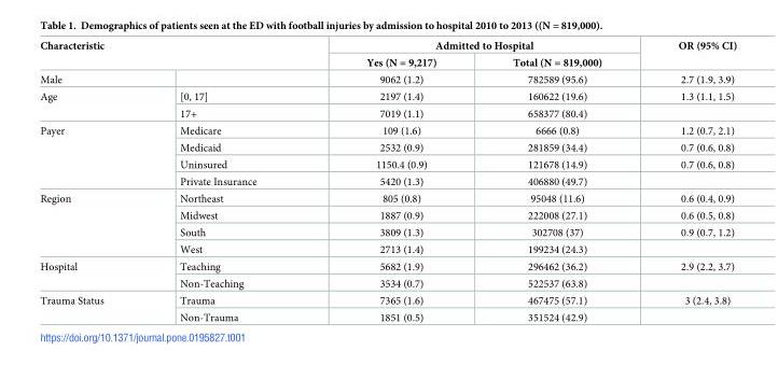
<table><thead><tr><td rowspan="2" colspan="2">Characteristic</td><td colspan="2">Admitted to Hospital</td><td rowspan="3">OR (95% CI) 2.7 (1.9, 3.9)</td></tr><tr><td rowspan="2">Yes (N = 9,217) 9062 (1.2)</td><td rowspan="2">Total (N = 819,000) 782589 (95.6)</td></tr><tr><td>Male</td><td></td></tr></thead><tbody><tr><td rowspan="2">Age</td><td>[0, 17]</td><td>2197 (1.4)</td><td>160622 (19.6)</td><td>1.3 (1.1, 1.5)</td></tr><tr><td>17+</td><td>7019 (1.1)</td><td>658377 (80.4)</td><td></td></tr><tr><td rowspan="4">Payer</td><td>Medicare</td><td>109 (1.6)</td><td>6666 (0.8)</td><td>1.2 (0.7, 2.1)</td></tr><tr><td>Medicaid</td><td>2532 (0.9)</td><td>281859 (34.4)</td><td>0.7 (0.6, 0.8)</td></tr><tr><td>Uninsured</td><td>1150.4 (0.9)</td><td>121678 (14.9)</td><td>0.7 (0.6, 0.8)</td></tr><tr><td>Private Insurance</td><td>5420 (1.3)</td><td>406880 (49.7)</td><td></td></tr><tr><td rowspan="4">Region</td><td>Northeast</td><td>805 (0.8)</td><td>95048 (11.6)</td><td>0.6 (0.4, 0.9)</td></tr><tr><td>Midwest</td><td>1887 (0.9)</td><td>222008 (27.1)</td><td>0.6 (0.5, 0.8)</td></tr><tr><td>South</td><td>3809 (1.3)</td><td>302708 (37)</td><td>0.9 (0.7, 1.2)</td></tr><tr><td>West</td><td>2713 (1.4)</td><td>199234 (24.3)</td><td></td></tr><tr><td rowspan="2">Hospital</td><td>Teaching</td><td>5682 (1.9)</td><td>296462 (36.2)</td><td>2.9 (2.2, 3.7)</td></tr><tr><td>Non-Teaching</td><td>3534 (0.7)</td><td>522537 (63.8)</td><td></td></tr><tr><td rowspan="2">Trauma Status</td><td>Trauma</td><td>7365 (1.6)</td><td>467475 (57.1)</td><td>3 (2.4, 3.8)</td></tr><tr><td>Non-Trauma</td><td>1851 (0.5)</td><td>351524 (42.9)</td><td></td></tr></tbody></table>